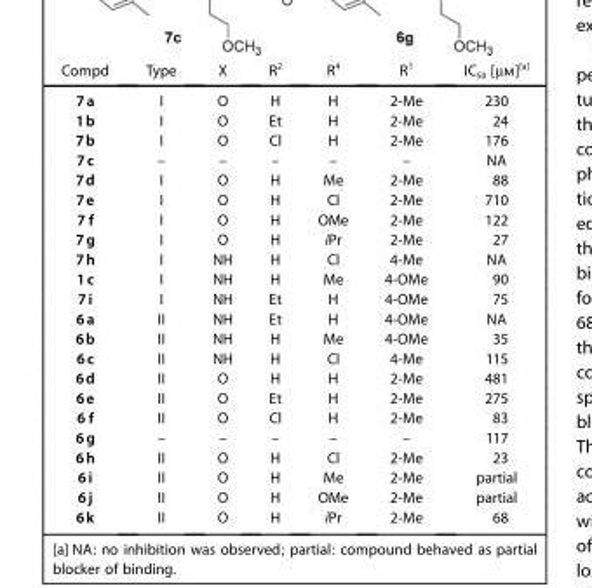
<table><thead><tr><td>Compd</td><td>Type</td><td>X</td><td>R<sup>2</sup></td><td>R<sup>4</sup></td><td>R<sup>1</sup></td><td>IC<sub>50</sub> [μm]<sup>[a]</sup></td></tr></thead><tbody><tr><td>7a</td><td>I</td><td>O</td><td>H</td><td>H</td><td>2-Me</td><td>230</td></tr><tr><td>1b</td><td>I</td><td>O</td><td>Et</td><td>H</td><td>2-Me</td><td>24</td></tr><tr><td>7b</td><td>I</td><td>O</td><td>Cl</td><td>H</td><td>2-Me</td><td>176</td></tr><tr><td>7c</td><td>–</td><td>–</td><td>–</td><td>–</td><td>–</td><td>NA</td></tr><tr><td>7d</td><td>I</td><td>O</td><td>H</td><td>Me</td><td>2-Me</td><td>88</td></tr><tr><td>7e</td><td>I</td><td>O</td><td>H</td><td>Cl</td><td>2-Me</td><td>710</td></tr><tr><td>7 f</td><td>I</td><td>O</td><td>H</td><td>OMe</td><td>2-Me</td><td>122</td></tr><tr><td>7g</td><td>I</td><td>O</td><td>H</td><td>iPr</td><td>2-Me</td><td>27</td></tr><tr><td>7h</td><td>I</td><td>NH</td><td>H</td><td>Cl</td><td>4-Me</td><td>NA</td></tr><tr><td>1c</td><td>I</td><td>NH</td><td>H</td><td>Me</td><td>4-OMe</td><td>90</td></tr><tr><td>7i</td><td>I</td><td>NH</td><td>Et</td><td>H</td><td>4-OMe</td><td>75</td></tr><tr><td>6a</td><td>II</td><td>NH</td><td>Et</td><td>H</td><td>4-OMe</td><td>NA</td></tr><tr><td>6b</td><td>II</td><td>NH</td><td>H</td><td>Me</td><td>4-OMe</td><td>35</td></tr><tr><td>6c</td><td>II</td><td>NH</td><td>H</td><td>Cl</td><td>4-Me</td><td>115</td></tr><tr><td>6d</td><td>II</td><td>O</td><td>H</td><td>H</td><td>2-Me</td><td>481</td></tr><tr><td>6e</td><td>II</td><td>O</td><td>Et</td><td>H</td><td>2-Me</td><td>275</td></tr><tr><td>6 f</td><td>II</td><td>O</td><td>Cl</td><td>H</td><td>2-Me</td><td>83</td></tr><tr><td>6g</td><td>–</td><td>–</td><td>–</td><td>–</td><td>–</td><td>117</td></tr><tr><td>6h</td><td>II</td><td>O</td><td>H</td><td>Cl</td><td>2-Me</td><td>23</td></tr><tr><td>6i</td><td>II</td><td>O</td><td>H</td><td>Me</td><td>2-Me</td><td>partial</td></tr><tr><td>6j</td><td>II</td><td>O</td><td>H</td><td>OMe</td><td>2-Me</td><td>partial</td></tr><tr><td>6k</td><td>II</td><td>O</td><td>H</td><td>iPr</td><td>2-Me</td><td>68</td></tr></tbody></table>